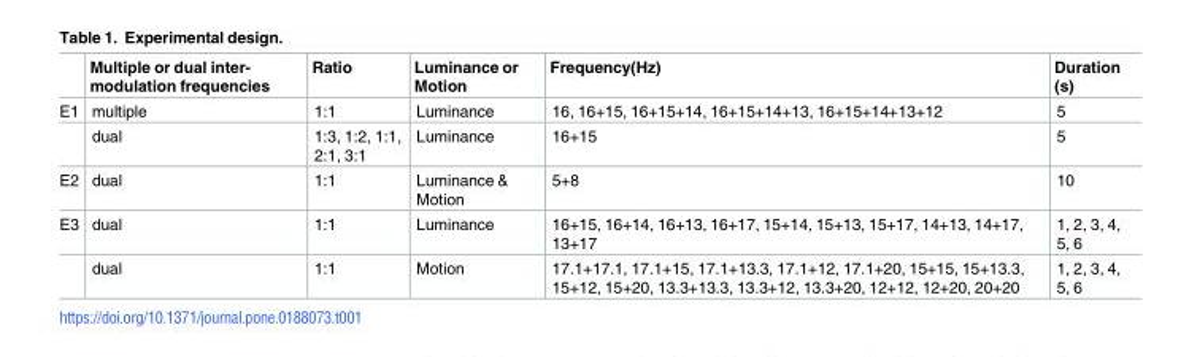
<table><thead><tr><td></td><td>Multiple or dual inter- modulation frequencies</td><td>Ratio</td><td>Luminance or Motion</td><td>Frequency(Hz)</td><td>Duration (s)</td></tr></thead><tbody><tr><td rowspan="2">E1</td><td>multiple</td><td>1:1</td><td>Luminance</td><td>16, 16+15, 16+15+14, 16+15+14+13, 16+15+14+13+12</td><td>5</td></tr><tr><td>dual</td><td>1:3, 1:2, 1:1, 2:1, 3:1</td><td>Luminance</td><td>16+15</td><td>5</td></tr><tr><td>E2</td><td>dual</td><td>1:1</td><td>Luminance &amp; Motion</td><td>5+8</td><td>10</td></tr><tr><td rowspan="2">E3</td><td>dual</td><td>1:1</td><td>Luminance</td><td>16+15, 16+14, 16+13, 16+17, 15+14, 15+13, 15+17, 14+13, 14+17, 13+17</td><td>1, 2, 3, 4, 5, 6</td></tr><tr><td>dual</td><td>1:1</td><td>Motion</td><td>17.1+17.1, 17.1+15, 17.1+13.3, 17.1+12, 17.1+20, 15+15, 15+13.3, 15+12, 15+20, 13.3+13.3, 13.3+12, 13.3+20, 12+12, 12+20, 20+20</td><td>1, 2, 3, 4, 5, 6</td></tr></tbody></table>